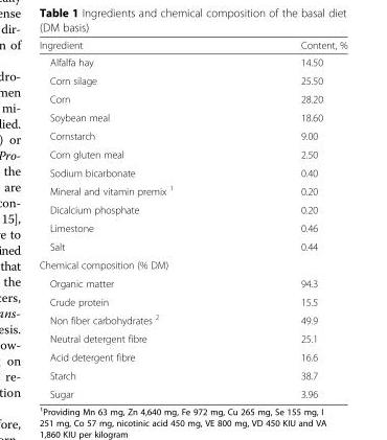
<table><thead><tr><td>Ingredient</td><td>Content, %</td></tr></thead><tbody><tr><td>Alfalfa hay</td><td>14.50</td></tr><tr><td>Corn silage</td><td>25.50</td></tr><tr><td>Corn</td><td>28.20</td></tr><tr><td>Soybean meal</td><td>18.60</td></tr><tr><td>Cornstarch</td><td>9.00</td></tr><tr><td>Corn gluten meal</td><td>2.50</td></tr><tr><td>Sodium bicarbonate</td><td>0.40</td></tr><tr><td>Mineral and vitamin premix <sup>1</sup></td><td>0.20</td></tr><tr><td>Dicalcium phosphate</td><td>0.20</td></tr><tr><td>Limestone</td><td>0.46</td></tr><tr><td>Salt</td><td>0.44</td></tr><tr><td colspan="2">Chemical composition (% DM)</td></tr><tr><td>Organic matter</td><td>94.3</td></tr><tr><td>Crude protein</td><td>15.5</td></tr><tr><td>Non fiber carbohydrates <sup>2</sup></td><td>49.9</td></tr><tr><td>Neutral detergent fibre</td><td>25.1</td></tr><tr><td>Acid detergent fibre</td><td>16.6</td></tr><tr><td>Starch</td><td>38.7</td></tr><tr><td>Sugar</td><td>3.96</td></tr></tbody></table>